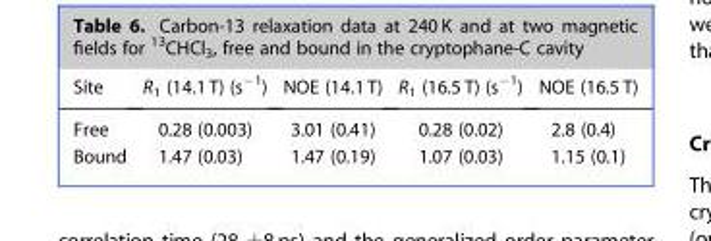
<table><thead><tr><td>Site</td><td>R<sub>1</sub> (14.1 T) (s<sup>−1</sup>)</td><td>NOE (14.1 T)</td><td>R<sub>1</sub> (16.5 T) (s<sup>−1</sup>)</td><td>NOE (16.5 T)</td></tr></thead><tbody><tr><td>Free</td><td>0.28 (0.003)</td><td>3.01 (0.41)</td><td>0.28 (0.02)</td><td>2.8 (0.4)</td></tr><tr><td>Bound</td><td>1.47 (0.03)</td><td>1.47 (0.19)</td><td>1.07 (0.03)</td><td>1.15 (0.1)</td></tr></tbody></table>